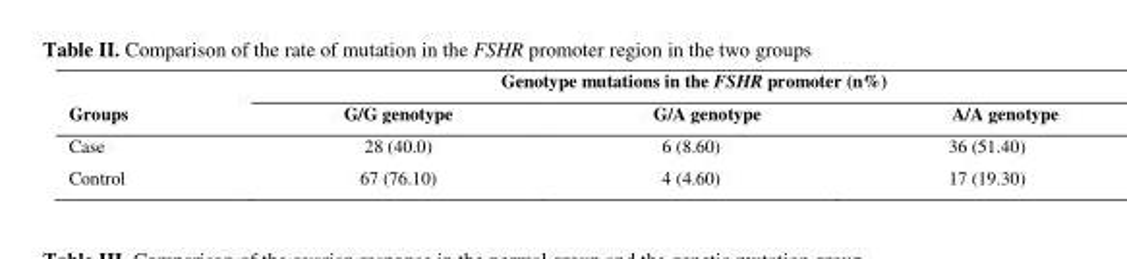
<table><thead><tr><td rowspan="2">Groups</td><td colspan="3">Genotype mutations in the FSHR promoter (n%)</td></tr><tr><td>G/G genotype</td><td>G/A genotype</td><td>A/A genotype</td></tr></thead><tbody><tr><td>Case</td><td>28 (40.0)</td><td>6 (8.60)</td><td>36 (51.40)</td></tr><tr><td>Control</td><td>67 (76.10)</td><td>4 (4.60)</td><td>17 (19.30)</td></tr></tbody></table>